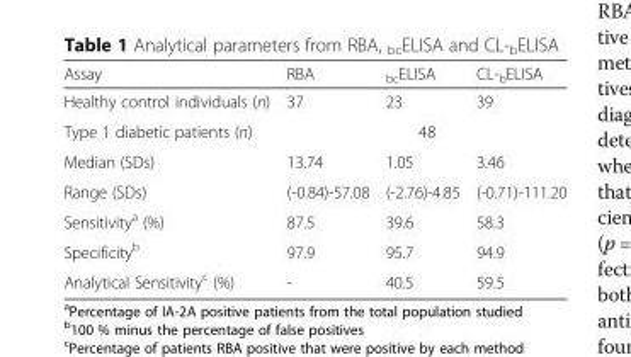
<table><thead><tr><td>Assay</td><td>RBA</td><td><sub>bc</sub>ELISA</td><td>CL-<sub>b</sub>ELISA</td></tr></thead><tbody><tr><td>Healthy control individuals (n)</td><td>37</td><td>23</td><td>39</td></tr><tr><td>Type 1 diabetic patients (n)</td><td colspan="3">48</td></tr><tr><td>Median (SDs)</td><td>13.74</td><td>1.05</td><td>3.46</td></tr><tr><td>Range (SDs)</td><td>(-0.84)-57.08</td><td>(-2.76)-4.85</td><td>(-0.71)-111.20</td></tr><tr><td>Sensitivity<sup>a</sup> (%)</td><td>87.5</td><td>39.6</td><td>58.3</td></tr><tr><td>Specificity<sup>b</sup></td><td>97.9</td><td>95.7</td><td>94.9</td></tr><tr><td>Analytical Sensitivity<sup>c</sup> (%)</td><td>-</td><td>40.5</td><td>59.5</td></tr></tbody></table>